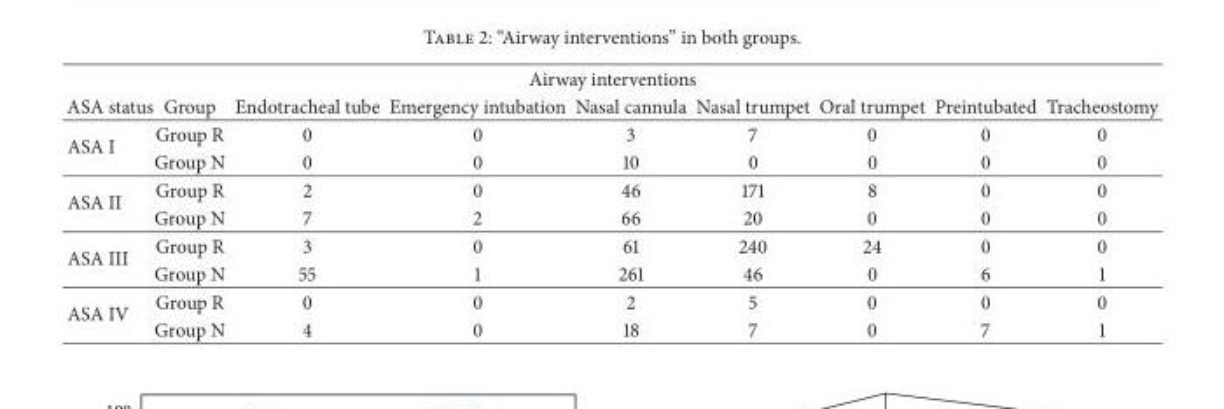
<table><thead><tr><td colspan="9">Airway interventions</td></tr><tr><td>ASA status</td><td>Group</td><td>Endotracheal tube</td><td>Emergency intubation</td><td>Nasal cannula</td><td>Nasal trumpet</td><td>Oral trumpet</td><td>Preintubated</td><td>Tracheostomy</td></tr></thead><tbody><tr><td rowspan="2">ASA I</td><td>Group R</td><td>0</td><td>0</td><td>3</td><td>7</td><td>0</td><td>0</td><td>0</td></tr><tr><td>Group N</td><td>0</td><td>0</td><td>10</td><td>0</td><td>0</td><td>0</td><td>0</td></tr><tr><td rowspan="2">ASA II</td><td>Group R</td><td>2</td><td>0</td><td>46</td><td>171</td><td>8</td><td>0</td><td>0</td></tr><tr><td>Group N</td><td>7</td><td>2</td><td>66</td><td>20</td><td>0</td><td>0</td><td>0</td></tr><tr><td rowspan="2">ASA III</td><td>Group R</td><td>3</td><td>0</td><td>61</td><td>240</td><td>24</td><td>0</td><td>0</td></tr><tr><td>Group N</td><td>55</td><td>1</td><td>261</td><td>46</td><td>0</td><td>6</td><td>1</td></tr><tr><td rowspan="2">ASA IV</td><td>Group R</td><td>0</td><td>0</td><td>2</td><td>5</td><td>0</td><td>0</td><td>0</td></tr><tr><td>Group N</td><td>4</td><td>0</td><td>18</td><td>7</td><td>0</td><td>7</td><td>1</td></tr></tbody></table>